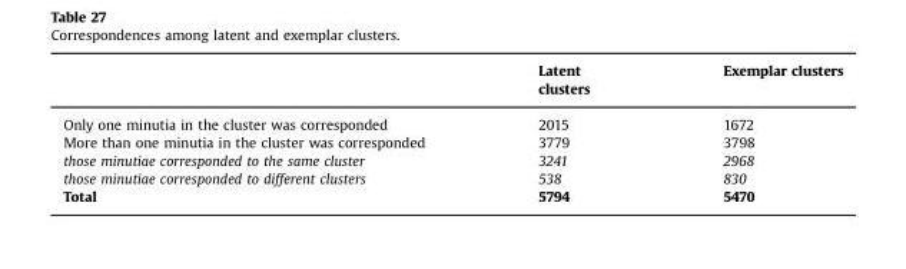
<table><thead><tr><td></td><td>Latent clusters</td><td>Exemplar clusters</td></tr></thead><tbody><tr><td>Only one minutia in the cluster was corresponded</td><td>2015</td><td>1672</td></tr><tr><td>More than one minutia in the cluster was corresponded</td><td>3779</td><td>3798</td></tr><tr><td>those minutiae corresponded to the same cluster</td><td>3241</td><td>2968</td></tr><tr><td>those minutiae corresponded to different clusters</td><td>538</td><td>830</td></tr><tr><td>Total</td><td>5794</td><td>5470</td></tr></tbody></table>